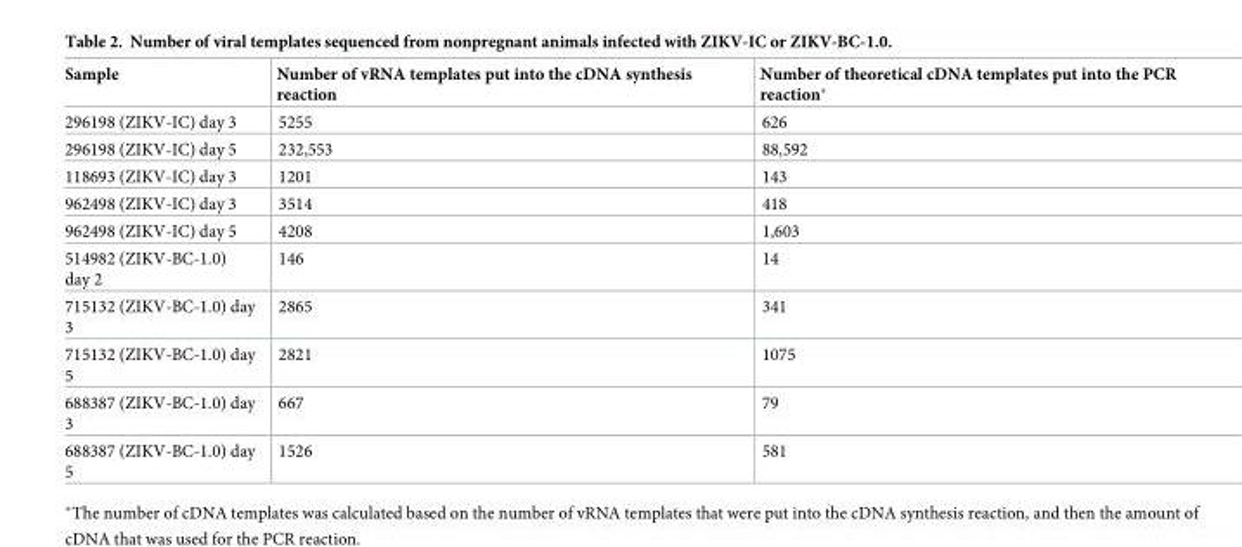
<table><thead><tr><td>Sample</td><td>Number of vRNA templates put into the cDNA synthesis reaction</td><td>Number of theoretical cDNA templates put into the PCR reaction*</td></tr></thead><tbody><tr><td>296198 (ZIKV-IC) day 3</td><td>5255</td><td>626</td></tr><tr><td>296198 (ZIKV-IC) day 5</td><td>232,553</td><td>88,592</td></tr><tr><td>118693 (ZIKV-IC) day 3</td><td>1201</td><td>143</td></tr><tr><td>962498 (ZIKV-IC) day 3</td><td>3514</td><td>418</td></tr><tr><td>962498 (ZIKV-IC) day 5</td><td>4208</td><td>1,603</td></tr><tr><td>514982 (ZIKV-BC-1.0) day 2</td><td>146</td><td>14</td></tr><tr><td>715132 (ZIKV-BC-1.0) day 3</td><td>2865</td><td>341</td></tr><tr><td>715132 (ZIKV-BC-1.0) day 5</td><td>2821</td><td>1075</td></tr><tr><td>688387 (ZIKV-BC-1.0) day 3</td><td>667</td><td>79</td></tr><tr><td>688387 (ZIKV-BC-1.0) day 5</td><td>1526</td><td>581</td></tr></tbody></table>